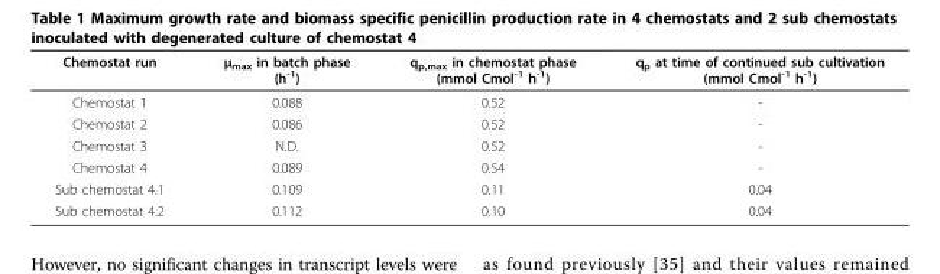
<table><thead><tr><td>Chemostat run</td><td>μ<sub>max</sub> in batch phase (h<sup>-1</sup>)</td><td>q<sub>p,max</sub> in chemostat phase (mmol Cmol<sup>-1</sup> h<sup>-1</sup>)</td><td>q<sub>p</sub> at time of continued sub cultivation (mmol Cmol<sup>-1</sup> h<sup>-1</sup>)</td></tr></thead><tbody><tr><td>Chemostat 1</td><td>0.088</td><td>0.52</td><td>-</td></tr><tr><td>Chemostat 2</td><td>0.086</td><td>0.52</td><td>-</td></tr><tr><td>Chemostat 3</td><td>N.D.</td><td>0.52</td><td>-</td></tr><tr><td>Chemostat 4</td><td>0.089</td><td>0.54</td><td>-</td></tr><tr><td>Sub chemostat 4.1</td><td>0.109</td><td>0.11</td><td>0.04</td></tr><tr><td>Sub chemostat 4.2</td><td>0.112</td><td>0.10</td><td>0.04</td></tr></tbody></table>